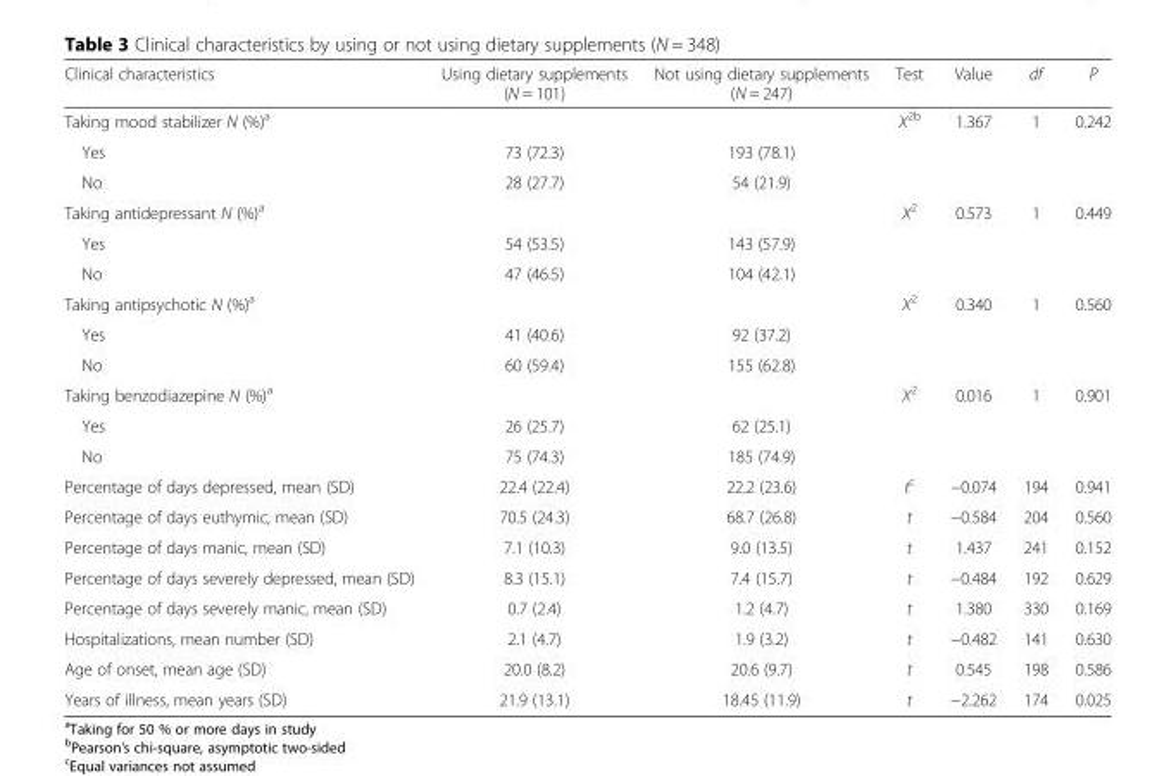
<table><thead><tr><td>Clinical characteristics</td><td>Using dietary supplements (N = 101)</td><td>Not using dietary supplements (N = 247)</td><td>Test</td><td>Value</td><td>df</td><td>P</td></tr></thead><tbody><tr><td>Taking mood stabilizer N (%)<sup>a</sup></td><td></td><td></td><td>Χ<sup>2b</sup></td><td>1.367</td><td>1</td><td>0.242</td></tr><tr><td>Yes</td><td>73 (72.3)</td><td>193 (78.1)</td><td></td><td></td><td></td><td></td></tr><tr><td>No</td><td>28 (27.7)</td><td>54 (21.9)</td><td></td><td></td><td></td><td></td></tr><tr><td>Taking antidepressant N (%)<sup>a</sup></td><td></td><td></td><td>Χ<sup>2</sup></td><td>0.573</td><td>1</td><td>0.449</td></tr><tr><td>Yes</td><td>54 (53.5)</td><td>143 (57.9)</td><td></td><td></td><td></td><td></td></tr><tr><td>No</td><td>47 (46.5)</td><td>104 (42.1)</td><td></td><td></td><td></td><td></td></tr><tr><td>Taking antipsychotic N (%)<sup>a</sup></td><td></td><td></td><td>Χ<sup>2</sup></td><td>0.340</td><td>1</td><td>0.560</td></tr><tr><td>Yes</td><td>41 (40.6)</td><td>92 (37.2)</td><td></td><td></td><td></td><td></td></tr><tr><td>No</td><td>60 (59.4)</td><td>155 (62.8)</td><td></td><td></td><td></td><td></td></tr><tr><td>Taking benzodiazepine N (%)<sup>a</sup></td><td></td><td></td><td>Χ<sup>2</sup></td><td>0.016</td><td>1</td><td>0.901</td></tr><tr><td>Yes</td><td>26 (25.7)</td><td>62 (25.1)</td><td></td><td></td><td></td><td></td></tr><tr><td>No</td><td>75 (74.3)</td><td>185 (74.9)</td><td></td><td></td><td></td><td></td></tr><tr><td>Percentage of days depressed, mean (SD)</td><td>22.4 (22.4)</td><td>22.2 (23.6)</td><td>t<sup>c</sup></td><td>−0.074</td><td>194</td><td>0.941</td></tr><tr><td>Percentage of days euthymic, mean (SD)</td><td>70.5 (24.3)</td><td>68.7 (26.8)</td><td>t</td><td>−0.584</td><td>204</td><td>0.560</td></tr><tr><td>Percentage of days manic, mean (SD)</td><td>7.1 (10.3)</td><td>9.0 (13.5)</td><td>t</td><td>1.437</td><td>241</td><td>0.152</td></tr><tr><td>Percentage of days severely depressed, mean (SD)</td><td>8.3 (15.1)</td><td>7.4 (15.7)</td><td>t</td><td>−0.484</td><td>192</td><td>0.629</td></tr><tr><td>Percentage of days severely manic, mean (SD)</td><td>0.7 (2.4)</td><td>1.2 (4.7)</td><td>t</td><td>1.380</td><td>330</td><td>0.169</td></tr><tr><td>Hospitalizations, mean number (SD)</td><td>2.1 (4.7)</td><td>1.9 (3.2)</td><td>t</td><td>−0.482</td><td>141</td><td>0.630</td></tr><tr><td>Age of onset, mean age (SD)</td><td>20.0 (8.2)</td><td>20.6 (9.7)</td><td>t</td><td>0.545</td><td>198</td><td>0.586</td></tr><tr><td>Years of illness, mean years (SD)</td><td>21.9 (13.1)</td><td>18.45 (11.9)</td><td>t</td><td>−2.262</td><td>174</td><td>0.025</td></tr></tbody></table>